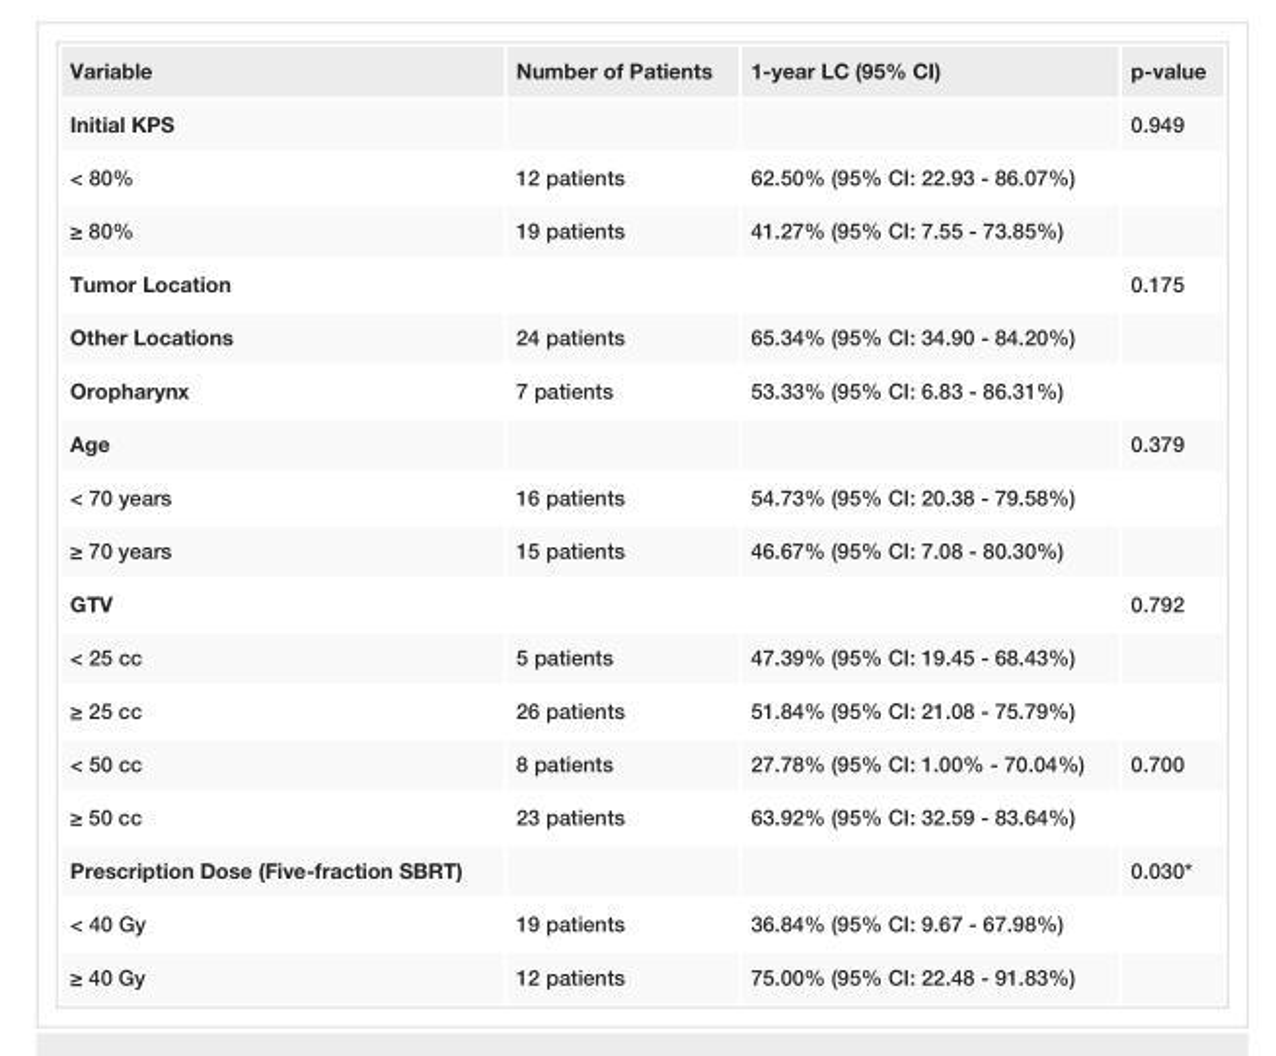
<table><tbody><tr><td>Variable</td><td>Number of Patients</td><td>1-year LC (95% CI)</td><td>p-value</td></tr><tr><td>Initial KPS</td><td></td><td></td><td>0.949</td></tr><tr><td>&lt; 80%</td><td>12 patients</td><td>62.50% (95% CI: 22.93 - 86.07%)</td><td></td></tr><tr><td>≥ 80%</td><td>19 patients</td><td>41.27% (95% CI: 7.55 - 73.85%)</td><td></td></tr><tr><td>Tumor Location</td><td></td><td></td><td>0.175</td></tr><tr><td>Other Locations</td><td>24 patients</td><td>65.34% (95% CI: 34.90 - 84.20%)</td><td></td></tr><tr><td>Oropharynx</td><td>7 patients</td><td>53.33% (95% CI: 6.83 - 86.31%)</td><td></td></tr><tr><td>Age</td><td></td><td></td><td>0.379</td></tr><tr><td>&lt; 70 years</td><td>16 patients</td><td>54.73% (95% CI: 20.38 - 79.58%)</td><td></td></tr><tr><td>≥ 70 years</td><td>15 patients</td><td>46.67% (95% CI: 7.08 - 80.30%)</td><td></td></tr><tr><td>GTV</td><td></td><td></td><td>0.792</td></tr><tr><td>&lt; 25 cc</td><td>5 patients</td><td>47.39% (95% CI: 19.45 - 68.43%)</td><td></td></tr><tr><td>≥ 25 cc</td><td>26 patients</td><td>51.84% (95% CI: 21.08 - 75.79%)</td><td></td></tr><tr><td>&lt; 50 cc</td><td>8 patients</td><td>27.78% (95% CI: 1.00% - 70.04%)</td><td>0.700</td></tr><tr><td>≥ 50 cc</td><td>23 patients</td><td>63.92% (95% CI: 32.59 - 83.64%)</td><td></td></tr><tr><td>Prescription Dose (Five-fraction SBRT)</td><td></td><td></td><td>0.030*</td></tr><tr><td>&lt; 40 Gy</td><td>19 patients</td><td>36.84% (95% CI: 9.67 - 67.98%)</td><td></td></tr><tr><td>≥ 40 Gy</td><td>12 patients</td><td>75.00% (95% CI: 22.48 - 91.83%)</td><td></td></tr></tbody></table>